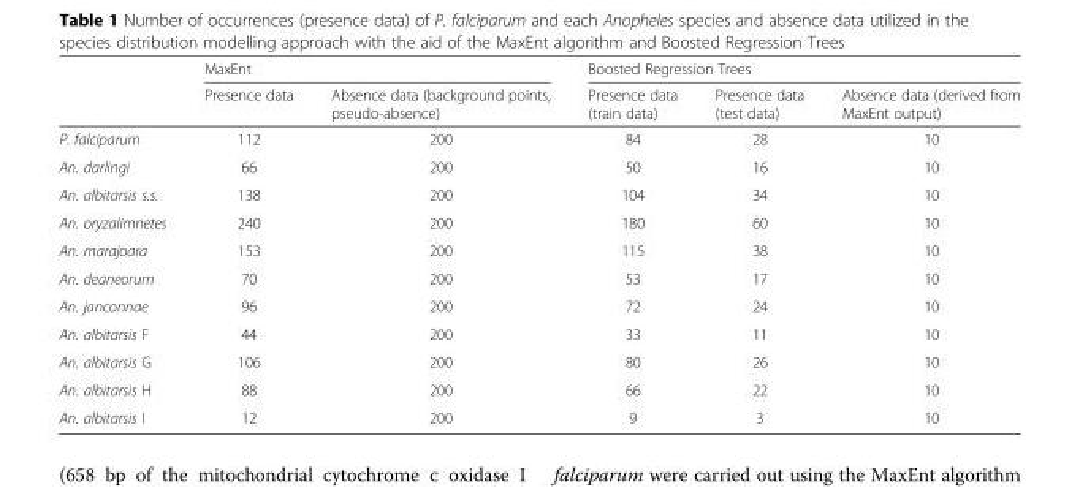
<table><thead><tr><td rowspan="2"></td><td colspan="2">MaxEnt</td><td colspan="3">Boosted Regression Trees</td></tr><tr><td>Presence data</td><td>Absence data (background points, pseudo-absence)</td><td>Presence data (train data)</td><td>Presence data (test data)</td><td>Absence data (derived from MaxEnt output)</td></tr></thead><tbody><tr><td>P. falciparum</td><td>112</td><td>200</td><td>84</td><td>28</td><td>10</td></tr><tr><td>An. darlingi</td><td>66</td><td>200</td><td>50</td><td>16</td><td>10</td></tr><tr><td>An. albitarsis s.s.</td><td>138</td><td>200</td><td>104</td><td>34</td><td>10</td></tr><tr><td>An. oryzalimnetes</td><td>240</td><td>200</td><td>180</td><td>60</td><td>10</td></tr><tr><td>An. marajoara</td><td>153</td><td>200</td><td>115</td><td>38</td><td>10</td></tr><tr><td>An. deaneorum</td><td>70</td><td>200</td><td>53</td><td>17</td><td>10</td></tr><tr><td>An. janconnae</td><td>96</td><td>200</td><td>72</td><td>24</td><td>10</td></tr><tr><td>An. albitarsis F</td><td>44</td><td>200</td><td>33</td><td>11</td><td>10</td></tr><tr><td>An. albitarsis G</td><td>106</td><td>200</td><td>80</td><td>26</td><td>10</td></tr><tr><td>An. albitarsis H</td><td>88</td><td>200</td><td>66</td><td>22</td><td>10</td></tr><tr><td>An. albitarsis I</td><td>12</td><td>200</td><td>9</td><td>3</td><td>10</td></tr></tbody></table>